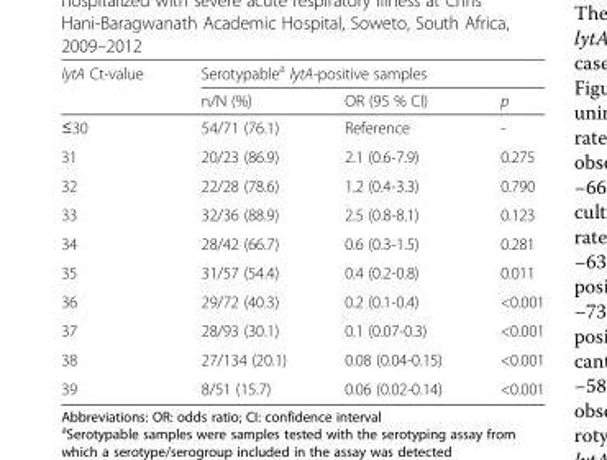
<table><thead><tr><td rowspan="2">lytA Ct-value</td><td colspan="3">Serotypable<sup>a</sup> lytA-positive samples</td></tr><tr><td>n/N (%)</td><td>OR (95 % CI)</td><td>p</td></tr></thead><tbody><tr><td>≤30</td><td>54/71 (76.1)</td><td>Reference</td><td>-</td></tr><tr><td>31</td><td>20/23 (86.9)</td><td>2.1 (0.6-7.9)</td><td>0.275</td></tr><tr><td>32</td><td>22/28 (78.6)</td><td>1.2 (0.4-3.3)</td><td>0.790</td></tr><tr><td>33</td><td>32/36 (88.9)</td><td>2.5 (0.8-8.1)</td><td>0.123</td></tr><tr><td>34</td><td>28/42 (66.7)</td><td>0.6 (0.3-1.5)</td><td>0.281</td></tr><tr><td>35</td><td>31/57 (54.4)</td><td>0.4 (0.2-0.8)</td><td>0.011</td></tr><tr><td>36</td><td>29/72 (40.3)</td><td>0.2 (0.1-0.4)</td><td>&lt;0.001</td></tr><tr><td>37</td><td>28/93 (30.1)</td><td>0.1 (0.07-0.3)</td><td>&lt;0.001</td></tr><tr><td>38</td><td>27/134 (20.1)</td><td>0.08 (0.04-0.15)</td><td>&lt;0.001</td></tr><tr><td>39</td><td>8/51 (15.7)</td><td>0.06 (0.02-0.14)</td><td>&lt;0.001</td></tr></tbody></table>